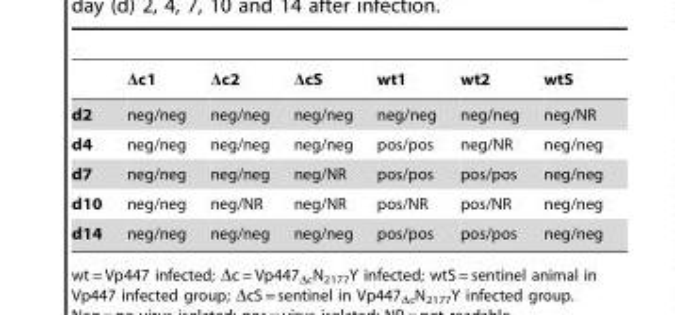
<table><thead><tr><td></td><td>Δc1</td><td>Δc2</td><td>ΔcS</td><td>wt1</td><td>wt2</td><td>wtS</td></tr></thead><tbody><tr><td>d2</td><td>neg/neg</td><td>neg/neg</td><td>neg/neg</td><td>neg/neg</td><td>neg/neg</td><td>neg/NR</td></tr><tr><td>d4</td><td>neg/neg</td><td>neg/neg</td><td>neg/neg</td><td>pos/pos</td><td>neg/NR</td><td>neg/neg</td></tr><tr><td>d7</td><td>neg/neg</td><td>neg/neg</td><td>neg/NR</td><td>pos/pos</td><td>pos/pos</td><td>neg/neg</td></tr><tr><td>d10</td><td>neg/neg</td><td>neg/NR</td><td>neg/NR</td><td>pos/NR</td><td>pos/NR</td><td>neg/neg</td></tr><tr><td>d14</td><td>neg/neg</td><td>neg/neg</td><td>neg/neg</td><td>pos/pos</td><td>pos/pos</td><td>neg/neg</td></tr></tbody></table>